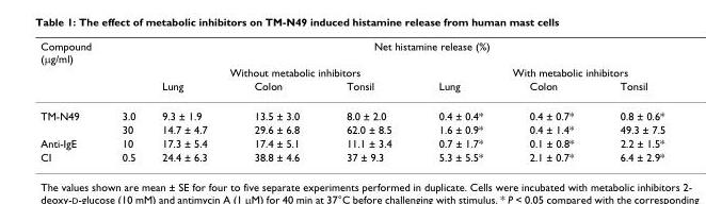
<table><thead><tr><td colspan="2">Compound (μg/ml)</td><td colspan="6">Net histamine release (%)</td></tr><tr><td rowspan="2"></td><td rowspan="2"></td><td colspan="3">Without metabolic inhibitors</td><td colspan="3">With metabolic inhibitors</td></tr><tr><td>Lung</td><td>Colon</td><td>Tonsil</td><td>Lung</td><td>Colon</td><td>Tonsil</td></tr></thead><tbody><tr><td rowspan="2">TM-N49</td><td>3.0</td><td>9.3 ± 1.9</td><td>13.5 ± 3.0</td><td>8.0 ± 2.0</td><td>0.4 ± 0.4*</td><td>0.4 ± 0.7*</td><td>0.8 ± 0.6*</td></tr><tr><td>30</td><td>14.7 ± 4.7</td><td>29.6 ± 6.8</td><td>62.0 ± 8.5</td><td>1.6 ± 0.9*</td><td>0.4 ± 1.4*</td><td>49.3 ± 7.5</td></tr><tr><td>Anti-IgE</td><td>10</td><td>17.3 ± 5.4</td><td>17.4 ± 5.1</td><td>11.1 ± 3.4</td><td>0.7 ± 1.7*</td><td>0.1 ± 0.8*</td><td>2.2 ± 1.5*</td></tr><tr><td>CI</td><td>0.5</td><td>24.4 ± 6.3</td><td>38.8 ± 4.6</td><td>37 ± 9.3</td><td>5.3 ± 5.5*</td><td>2.1 ± 0.7*</td><td>6.4 ± 2.9*</td></tr></tbody></table>